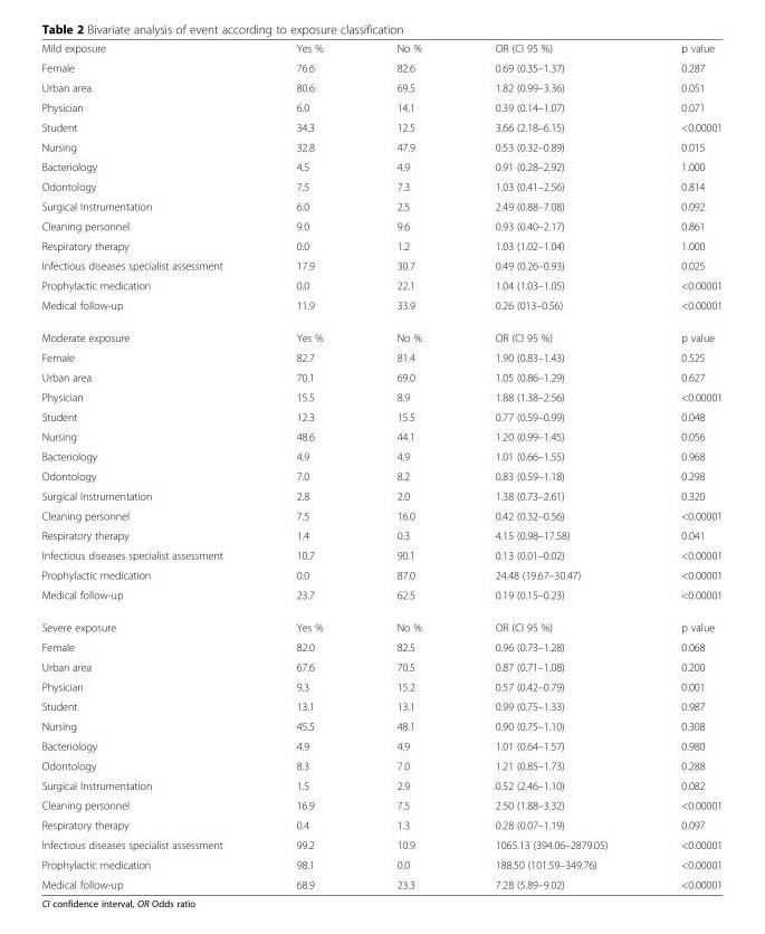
<table><tbody><tr><td>Mild exposure</td><td>Yes %</td><td>No %</td><td>OR (CI 95 %)</td><td>p value</td></tr><tr><td>Female</td><td>76.6</td><td>82.6</td><td>0.69 (0.35–1.37)</td><td>0.287</td></tr><tr><td>Urban area</td><td>80.6</td><td>69.5</td><td>1.82 (0.99–3.36)</td><td>0.051</td></tr><tr><td>Physician</td><td>6.0</td><td>14.1</td><td>0.39 (0.14–1.07)</td><td>0.071</td></tr><tr><td>Student</td><td>34.3</td><td>12.5</td><td>3.66 (2.18–6.15)</td><td>&lt;0.00001</td></tr><tr><td>Nursing</td><td>32.8</td><td>47.9</td><td>0.53 (0.32–0.89)</td><td>0.015</td></tr><tr><td>Bacteriology</td><td>4.5</td><td>4.9</td><td>0.91 (0.28–2.92)</td><td>1.000</td></tr><tr><td>Odontology</td><td>7.5</td><td>7.3</td><td>1.03 (0.41–2.56)</td><td>0.814</td></tr><tr><td>Surgical Instrumentation</td><td>6.0</td><td>2.5</td><td>2.49 (0.88–7.08)</td><td>0.092</td></tr><tr><td>Cleaning personnel</td><td>9.0</td><td>9.6</td><td>0.93 (0.40–2.17)</td><td>0.861</td></tr><tr><td>Respiratory therapy</td><td>0.0</td><td>1.2</td><td>1.03 (1.02–1.04)</td><td>1.000</td></tr><tr><td>Infectious diseases specialist assessment</td><td>17.9</td><td>30.7</td><td>0.49 (0.26–0.93)</td><td>0.025</td></tr><tr><td>Prophylactic medication</td><td>0.0</td><td>22.1</td><td>1.04 (1.03–1.05)</td><td>&lt;0.00001</td></tr><tr><td>Medical follow-up</td><td>11.9</td><td>33.9</td><td>0.26 (013–0.56)</td><td>&lt;0.00001</td></tr><tr><td>Moderate exposure</td><td>Yes %</td><td>No %</td><td>OR (CI 95 %)</td><td>p value</td></tr><tr><td>Female</td><td>82.7</td><td>81.4</td><td>1.90 (0.83–1.43)</td><td>0.525</td></tr><tr><td>Urban area</td><td>70.1</td><td>69.0</td><td>1.05 (0.86–1.29)</td><td>0.627</td></tr><tr><td>Physician</td><td>15.5</td><td>8.9</td><td>1.88 (1.38–2.56)</td><td>&lt;0.00001</td></tr><tr><td>Student</td><td>12.3</td><td>15.5</td><td>0.77 (0.59–0.99)</td><td>0.048</td></tr><tr><td>Nursing</td><td>48.6</td><td>44.1</td><td>1.20 (0.99–1.45)</td><td>0.056</td></tr><tr><td>Bacteriology</td><td>4.9</td><td>4.9</td><td>1.01 (0.66–1.55)</td><td>0.968</td></tr><tr><td>Odontology</td><td>7.0</td><td>8.2</td><td>0.83 (0.59–1.18)</td><td>0.298</td></tr><tr><td>Surgical Instrumentation</td><td>2.8</td><td>2.0</td><td>1.38 (0.73–2.61)</td><td>0.320</td></tr><tr><td>Cleaning personnel</td><td>7.5</td><td>16.0</td><td>0.42 (0.32–0.56)</td><td>&lt;0.00001</td></tr><tr><td>Respiratory therapy</td><td>1.4</td><td>0.3</td><td>4.15 (0.98–17.58)</td><td>0.041</td></tr><tr><td>Infectious diseases specialist assessment</td><td>10.7</td><td>90.1</td><td>0.13 (0.01–0.02)</td><td>&lt;0.00001</td></tr><tr><td>Prophylactic medication</td><td>0.0</td><td>87.0</td><td>24.48 (19.67–30.47)</td><td>&lt;0.00001</td></tr><tr><td>Medical follow-up</td><td>23.7</td><td>62.5</td><td>0.19 (0.15–0.23)</td><td>&lt;0.00001</td></tr><tr><td>Severe exposure</td><td>Yes %</td><td>No %</td><td>OR (CI 95 %)</td><td>p value</td></tr><tr><td>Female</td><td>82.0</td><td>82.5</td><td>0.96 (0.73–1.28)</td><td>0.068</td></tr><tr><td>Urban area</td><td>67.6</td><td>70.5</td><td>0.87 (0.71–1.08)</td><td>0.200</td></tr><tr><td>Physician</td><td>9.3</td><td>15.2</td><td>0.57 (0.42–0.79)</td><td>0.001</td></tr><tr><td>Student</td><td>13.1</td><td>13.1</td><td>0.99 (0.75–1.33)</td><td>0.987</td></tr><tr><td>Nursing</td><td>45.5</td><td>48.1</td><td>0.90 (0.75–1.10)</td><td>0.308</td></tr><tr><td>Bacteriology</td><td>4.9</td><td>4.9</td><td>1.01 (0.64–1.57)</td><td>0.980</td></tr><tr><td>Odontology</td><td>8.3</td><td>7.0</td><td>1.21 (0.85–1.73)</td><td>0.288</td></tr><tr><td>Surgical Instrumentation</td><td>1.5</td><td>2.9</td><td>0.52 (2.46–1.10)</td><td>0.082</td></tr><tr><td>Cleaning personnel</td><td>16.9</td><td>7.5</td><td>2.50 (1.88–3.32)</td><td>&lt;0.00001</td></tr><tr><td>Respiratory therapy</td><td>0.4</td><td>1.3</td><td>0.28 (0.07–1.19)</td><td>0.097</td></tr><tr><td>Infectious diseases specialist assessment</td><td>99.2</td><td>10.9</td><td>1065.13 (394.06–2879.05)</td><td>&lt;0.00001</td></tr><tr><td>Prophylactic medication</td><td>98.1</td><td>0.0</td><td>188.50 (101.59–349.76)</td><td>&lt;0.00001</td></tr><tr><td>Medical follow-up</td><td>68.9</td><td>23.3</td><td>7.28 (5.89–9.02)</td><td>&lt;0.00001</td></tr></tbody></table>